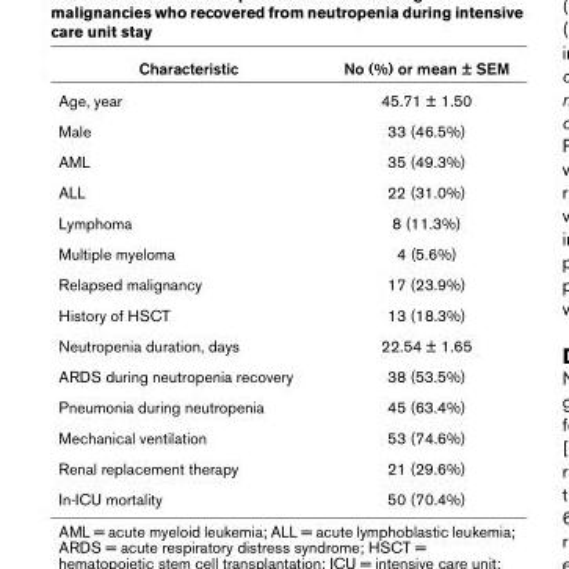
<table><thead><tr><td>Characteristic</td><td>No (%) or mean ± SEM</td></tr></thead><tbody><tr><td>Age, year</td><td>45.71 ± 1.50</td></tr><tr><td>Male</td><td>33 (46.5%)</td></tr><tr><td>AML</td><td>35 (49.3%)</td></tr><tr><td>ALL</td><td>22 (31.0%)</td></tr><tr><td>Lymphoma</td><td>8 (11.3%)</td></tr><tr><td>Multiple myeloma</td><td>4 (5.6%)</td></tr><tr><td>Relapsed malignancy</td><td>17 (23.9%)</td></tr><tr><td>History of HSCT</td><td>13 (18.3%)</td></tr><tr><td>Neutropenia duration, days</td><td>22.54 ± 1.65</td></tr><tr><td>ARDS during neutropenia recovery</td><td>38 (53.5%)</td></tr><tr><td>Pneumonia during neutropenia</td><td>45 (63.4%)</td></tr><tr><td>Mechanical ventilation</td><td>53 (74.6%)</td></tr><tr><td>Renal replacement therapy</td><td>21 (29.6%)</td></tr><tr><td>In-ICU mortality</td><td>50 (70.4%)</td></tr></tbody></table>